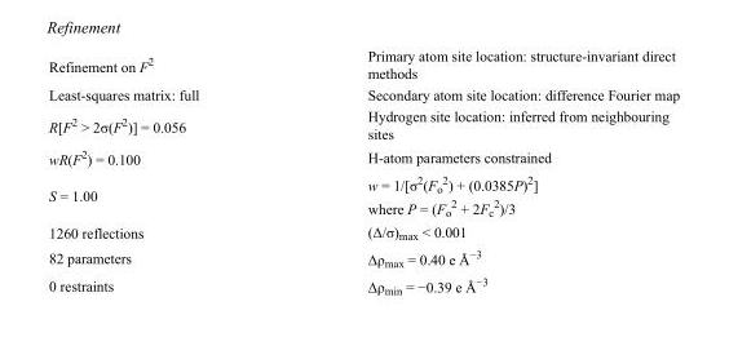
<table><tbody><tr><td>Refinement on F<sup>2</sup></td><td>Primary atom site location: structure-invariant direct methods</td></tr><tr><td>Least-squares matrix: full</td><td>Secondary atom site location: difference Fourier map</td></tr><tr><td>R[F<sup>2</sup> &gt; 2σ(F<sup>2</sup>)] = 0.056</td><td>Hydrogen site location: inferred from neighbouring sites</td></tr><tr><td>wR(F<sup>2</sup>) = 0.100</td><td>H-atom parameters constrained</td></tr><tr><td>S = 1.00</td><td>w = 1/[σ<sup>2</sup>(F<sub>o</sub> <sup>2</sup>) + (0.0385P)<sup>2</sup>] where P = (F<sub>o</sub> <sup>2</sup> + 2F<sub>c</sub> <sup>2</sup>)/3</td></tr><tr><td>1260 reflections</td><td>(Δ/σ)<sub>max</sub> &lt; 0.001</td></tr><tr><td>82 parameters</td><td>Δρ<sub>max</sub> = 0.40 e Å<sup>−3</sup></td></tr><tr><td>0 restraints</td><td>Δρ<sub>min</sub> = −0.39 e Å<sup>−3</sup></td></tr></tbody></table>